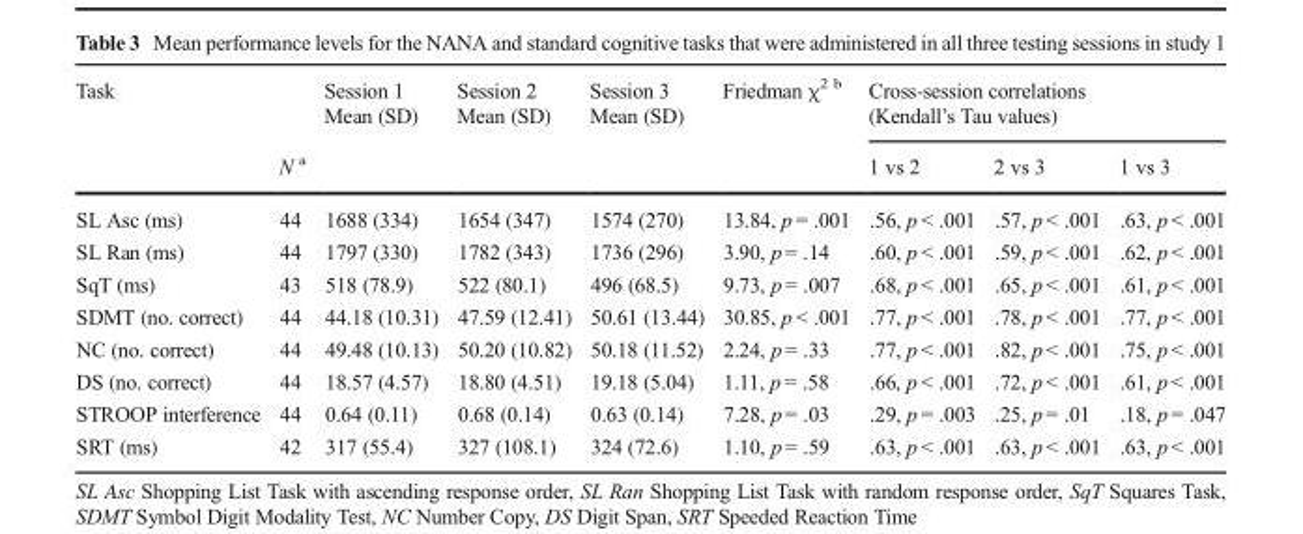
<table><thead><tr><td rowspan="2">Task</td><td rowspan="2">N <sup>a</sup></td><td rowspan="2">Session 1 Mean (SD)</td><td rowspan="2">Session 2 Mean (SD)</td><td rowspan="2">Session 3 Mean (SD)</td><td rowspan="2">Friedman χ<sup>2 b</sup></td><td colspan="3">Cross-session correlations (Kendall’s Tau values)</td></tr><tr><td>1 vs 2</td><td>2 vs 3</td><td>1 vs 3</td></tr></thead><tbody><tr><td>SL Asc (ms)</td><td>44</td><td>1688 (334)</td><td>1654 (347)</td><td>1574 (270)</td><td>13.84, p = .001</td><td>.56, p &lt; .001</td><td>.57, p &lt; .001</td><td>.63, p &lt; .001</td></tr><tr><td>SL Ran (ms)</td><td>44</td><td>1797 (330)</td><td>1782 (343)</td><td>1736 (296)</td><td>3.90, p = .14</td><td>.60, p &lt; .001</td><td>.59, p &lt; .001</td><td>.62, p &lt; .001</td></tr><tr><td>SqT (ms)</td><td>43</td><td>518 (78.9)</td><td>522 (80.1)</td><td>496 (68.5)</td><td>9.73, p = .007</td><td>.68, p &lt; .001</td><td>.65, p &lt; .001</td><td>.61, p &lt; .001</td></tr><tr><td>SDMT (no. correct)</td><td>44</td><td>44.18 (10.31)</td><td>47.59 (12.41)</td><td>50.61 (13.44)</td><td>30.85, p &lt; .001</td><td>.77, p &lt; .001</td><td>.78, p &lt; .001</td><td>.77, p &lt; .001</td></tr><tr><td>NC (no. correct)</td><td>44</td><td>49.48 (10.13)</td><td>50.20 (10.82)</td><td>50.18 (11.52)</td><td>2.24, p = .33</td><td>.77, p &lt; .001</td><td>.82, p &lt; .001</td><td>.75, p &lt; .001</td></tr><tr><td>DS (no. correct)</td><td>44</td><td>18.57 (4.57)</td><td>18.80 (4.51)</td><td>19.18 (5.04)</td><td>1.11, p = .58</td><td>.66, p &lt; .001</td><td>.72, p &lt; .001</td><td>.61, p &lt; .001</td></tr><tr><td>STROOP interference</td><td>44</td><td>0.64 (0.11)</td><td>0.68 (0.14)</td><td>0.63 (0.14)</td><td>7.28, p = .03</td><td>.29, p = .003</td><td>.25, p = .01</td><td>.18, p = .047</td></tr><tr><td>SRT (ms)</td><td>42</td><td>317 (55.4)</td><td>327 (108.1)</td><td>324 (72.6)</td><td>1.10, p = .59</td><td>.63, p &lt; .001</td><td>.63, p &lt; .001</td><td>.63, p &lt; .001</td></tr></tbody></table>